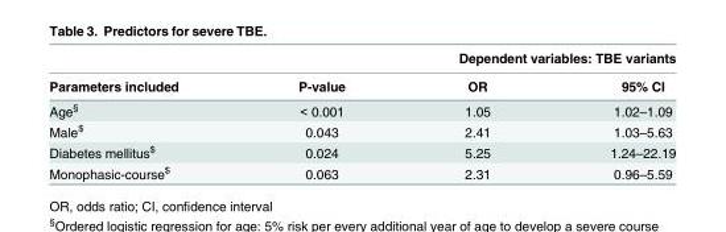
<table><thead><tr><td colspan="4">Dependent variables: TBE variants</td></tr><tr><td>Parameters included</td><td>P-value</td><td>OR</td><td>95% CI</td></tr></thead><tbody><tr><td>Age<sup>§</sup></td><td>&lt; 0.001</td><td>1.05</td><td>1.02–1.09</td></tr><tr><td>Male<sup>$</sup></td><td>0.043</td><td>2.41</td><td>1.03–5.63</td></tr><tr><td>Diabetes mellitus<sup>$</sup></td><td>0.024</td><td>5.25</td><td>1.24–22.19</td></tr><tr><td>Monophasic-course<sup>$</sup></td><td>0.063</td><td>2.31</td><td>0.96–5.59</td></tr></tbody></table>